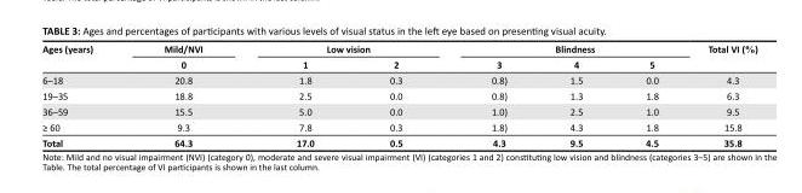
<table><thead><tr><td rowspan="2">Ages (years)</td><td rowspan="2">Mild/NVI 0</td><td colspan="2">Low vision</td><td colspan="3">Blindness</td><td rowspan="2">Total VI (%)</td></tr><tr><td>1</td><td>2</td><td>3</td><td>4</td><td>5</td></tr></thead><tbody><tr><td>6–18</td><td>20.8</td><td>1.8</td><td>0.3</td><td>0.8)</td><td>1.5</td><td>0.0</td><td>4.3</td></tr><tr><td>19–35</td><td>18.8</td><td>2.5</td><td>0.0</td><td>0.8)</td><td>1.3</td><td>1.8</td><td>6.3</td></tr><tr><td>36–59</td><td>15.5</td><td>5.0</td><td>0.0</td><td>1.0)</td><td>2.5</td><td>1.0</td><td>9.5</td></tr><tr><td>≥ 60</td><td>9.3</td><td>7.8</td><td>0.3</td><td>1.8)</td><td>4.3</td><td>1.8</td><td>15.8</td></tr><tr><td>Total</td><td>64.3</td><td>17.0</td><td>0.5</td><td>4.3</td><td>9.5</td><td>4.5</td><td>35.8</td></tr></tbody></table>